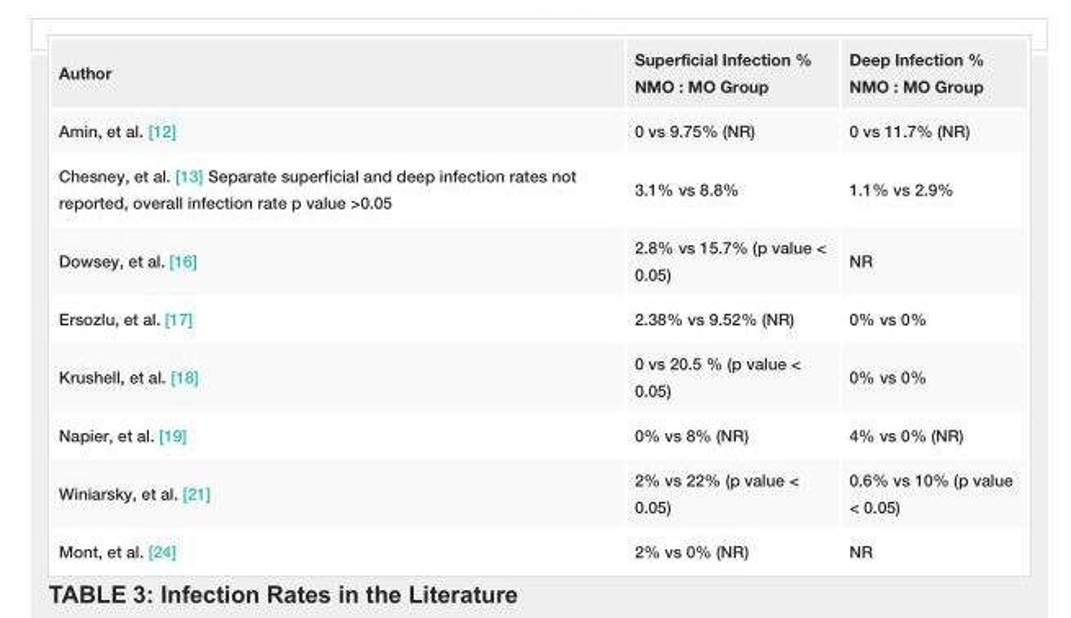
<table><tbody><tr><td>Author</td><td>Superficial Infection % NMO : MO Group</td><td>Deep Infection % NMO : MO Group</td></tr><tr><td>Amin, et al. [12]</td><td>0 vs 9.75% (NR)</td><td>0 vs 11.7% (NR)</td></tr><tr><td>Chesney, et al. [13] Separate superficial and deep infection rates not reported, overall infection rate p value &gt;0.05</td><td>3.1% vs 8.8%</td><td>1.1% vs 2.9%</td></tr><tr><td>Dowsey, et al. [16]</td><td>2.8% vs 15.7% (p value &lt; 0.05)</td><td>NR</td></tr><tr><td>Ersozlu, et al. [17]</td><td>2.38% vs 9.52% (NR)</td><td>0% vs 0%</td></tr><tr><td>Krushell, et al. [18]</td><td>0 vs 20.5 % (p value &lt; 0.05)</td><td>0% vs 0%</td></tr><tr><td>Napier, et al. [19]</td><td>0% vs 8% (NR)</td><td>4% vs 0% (NR)</td></tr><tr><td>Winiarsky, et al. [21]</td><td>2% vs 22% (p value &lt; 0.05)</td><td>0.6% vs 10% (p value &lt; 0.05)</td></tr><tr><td>Mont, et al. [24]</td><td>2% vs 0% (NR)</td><td>NR</td></tr></tbody></table>